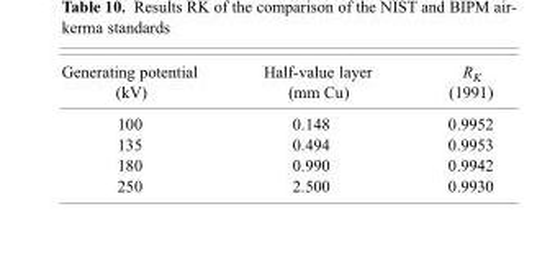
<table><thead><tr><td>Generating potential (kV)</td><td>Half-value layer (mm Cu)</td><td>R<sub>K</sub> (1991)</td></tr></thead><tbody><tr><td>100</td><td>0.148</td><td>0.9952</td></tr><tr><td>135</td><td>0.494</td><td>0.9953</td></tr><tr><td>180</td><td>0.990</td><td>0.9942</td></tr><tr><td>250</td><td>2.500</td><td>0.9930</td></tr></tbody></table>